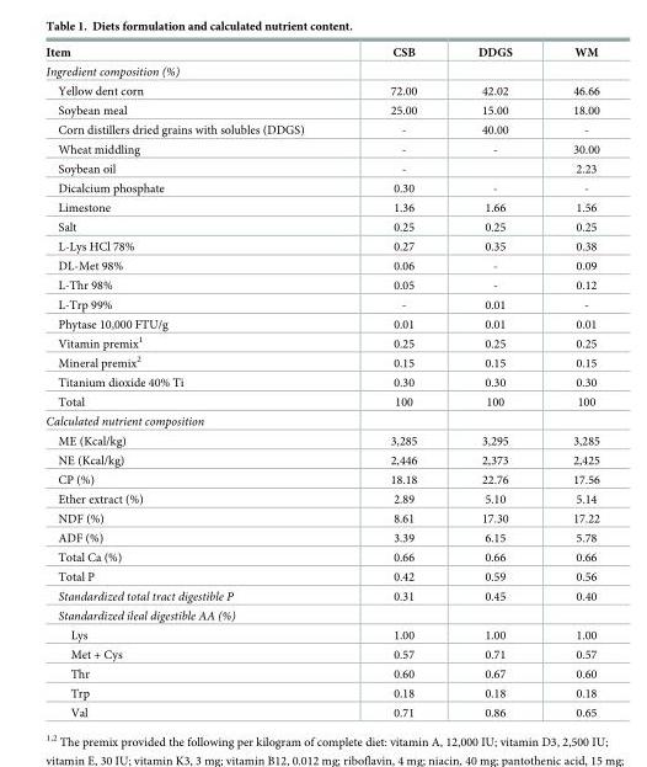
<table><thead><tr><td>Item</td><td>CSB</td><td>DDGS</td><td>WM</td></tr></thead><tbody><tr><td colspan="4">Ingredient composition (%)</td></tr><tr><td>Yellow dent corn</td><td>72.00</td><td>42.02</td><td>46.66</td></tr><tr><td>Soybean meal</td><td>25.00</td><td>15.00</td><td>18.00</td></tr><tr><td>Corn distillers dried grains with solubles (DDGS)</td><td>-</td><td>40.00</td><td>-</td></tr><tr><td>Wheat middling</td><td>-</td><td>-</td><td>30.00</td></tr><tr><td>Soybean oil</td><td>-</td><td></td><td>2.23</td></tr><tr><td>Dicalcium phosphate</td><td>0.30</td><td>-</td><td>-</td></tr><tr><td>Limestone</td><td>1.36</td><td>1.66</td><td>1.56</td></tr><tr><td>Salt</td><td>0.25</td><td>0.25</td><td>0.25</td></tr><tr><td>L-Lys HCl 78%</td><td>0.27</td><td>0.35</td><td>0.38</td></tr><tr><td>DL-Met 98%</td><td>0.06</td><td>-</td><td>0.09</td></tr><tr><td>L-Thr 98%</td><td>0.05</td><td>-</td><td>0.12</td></tr><tr><td>L-Trp 99%</td><td>-</td><td>0.01</td><td>-</td></tr><tr><td>Phytase 10,000 FTU/g</td><td>0.01</td><td>0.01</td><td>0.01</td></tr><tr><td>Vitamin premix<sup>1</sup></td><td>0.25</td><td>0.25</td><td>0.25</td></tr><tr><td>Mineral premix<sup>2</sup></td><td>0.15</td><td>0.15</td><td>0.15</td></tr><tr><td>Titanium dioxide 40% Ti</td><td>0.30</td><td>0.30</td><td>0.30</td></tr><tr><td>Total</td><td>100</td><td>100</td><td>100</td></tr><tr><td colspan="4">Calculated nutrient composition</td></tr><tr><td>ME (Kcal/kg)</td><td>3,285</td><td>3,295</td><td>3,285</td></tr><tr><td>NE (Kcal/kg)</td><td>2,446</td><td>2,373</td><td>2,425</td></tr><tr><td>CP (%)</td><td>18.18</td><td>22.76</td><td>17.56</td></tr><tr><td>Ether extract (%)</td><td>2.89</td><td>5.10</td><td>5.14</td></tr><tr><td>NDF (%)</td><td>8.61</td><td>17.30</td><td>17.22</td></tr><tr><td>ADF (%)</td><td>3.39</td><td>6.15</td><td>5.78</td></tr><tr><td>Total Ca (%)</td><td>0.66</td><td>0.66</td><td>0.66</td></tr><tr><td>Total P</td><td>0.42</td><td>0.59</td><td>0.56</td></tr><tr><td>Standardized total tract digestible P</td><td>0.31</td><td>0.45</td><td>0.40</td></tr><tr><td colspan="4">Standardized ileal digestible AA (%)</td></tr><tr><td>Lys</td><td>1.00</td><td>1.00</td><td>1.00</td></tr><tr><td>Met + Cys</td><td>0.57</td><td>0.71</td><td>0.57</td></tr><tr><td>Thr</td><td>0.60</td><td>0.67</td><td>0.60</td></tr><tr><td>Trp</td><td>0.18</td><td>0.18</td><td>0.18</td></tr><tr><td>Val</td><td>0.71</td><td>0.86</td><td>0.65</td></tr></tbody></table>